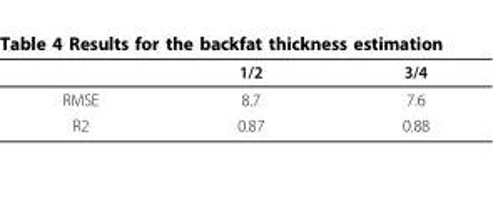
<table><thead><tr><td></td><td>1/2</td><td>3/4</td></tr></thead><tbody><tr><td>RMSE</td><td>8.7</td><td>7.6</td></tr><tr><td>R2</td><td>0.87</td><td>0.88</td></tr></tbody></table>